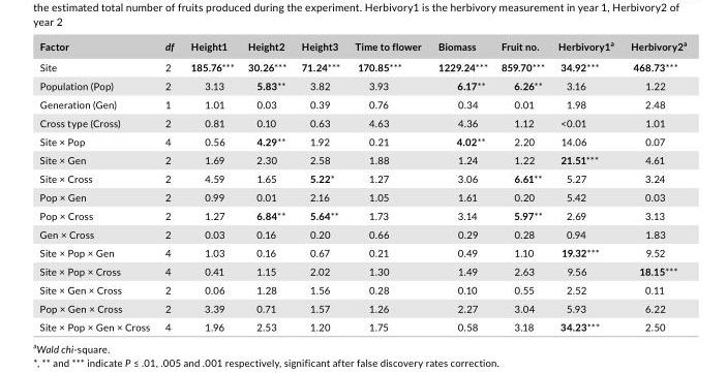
<table><thead><tr><td>Factor</td><td>df</td><td>Height1</td><td>Height2</td><td>Height3</td><td>Time to flower</td><td>Biomass</td><td>Fruit no.</td><td>Herbivory1<sup>a</sup></td><td>Herbivory2<sup>a</sup></td></tr></thead><tbody><tr><td>Site</td><td>2</td><td>185.76***</td><td>30.26***</td><td>71.24***</td><td>170.85***</td><td>1229.24***</td><td>859.70***</td><td>34.92***</td><td>468.73***</td></tr><tr><td>Population (Pop)</td><td>2</td><td>3.13</td><td>5.83**</td><td>3.82</td><td>3.93</td><td>6.17**</td><td>6.26**</td><td>3.16</td><td>1.22</td></tr><tr><td>Generation (Gen)</td><td>1</td><td>1.01</td><td>0.03</td><td>0.39</td><td>0.76</td><td>0.34</td><td>0.01</td><td>1.98</td><td>2.48</td></tr><tr><td>Cross type (Cross)</td><td>2</td><td>0.81</td><td>0.10</td><td>0.63</td><td>4.63</td><td>4.36</td><td>1.12</td><td>&lt;0.01</td><td>1.01</td></tr><tr><td>Site × Pop</td><td>4</td><td>0.56</td><td>4.29**</td><td>1.92</td><td>0.21</td><td>4.02**</td><td>2.20</td><td>14.06</td><td>0.07</td></tr><tr><td>Site × Gen</td><td>2</td><td>1.69</td><td>2.30</td><td>2.58</td><td>1.88</td><td>1.24</td><td>1.22</td><td>21.51***</td><td>4.61</td></tr><tr><td>Site × Cross</td><td>2</td><td>4.59</td><td>1.65</td><td>5.22*</td><td>1.27</td><td>3.06</td><td>6.61**</td><td>5.27</td><td>3.24</td></tr><tr><td>Pop × Gen</td><td>2</td><td>0.99</td><td>0.01</td><td>2.16</td><td>1.05</td><td>1.61</td><td>0.20</td><td>5.42</td><td>0.03</td></tr><tr><td>Pop × Cross</td><td>2</td><td>1.27</td><td>6.84**</td><td>5.64**</td><td>1.73</td><td>3.14</td><td>5.97**</td><td>2.69</td><td>3.13</td></tr><tr><td>Gen × Cross</td><td>2</td><td>0.03</td><td>0.16</td><td>0.20</td><td>0.66</td><td>0.29</td><td>0.28</td><td>0.94</td><td>1.83</td></tr><tr><td>Site × Pop × Gen</td><td>4</td><td>1.03</td><td>0.16</td><td>0.67</td><td>0.21</td><td>0.49</td><td>1.10</td><td>19.32***</td><td>9.52</td></tr><tr><td>Site × Pop × Cross</td><td>4</td><td>0.41</td><td>1.15</td><td>2.02</td><td>1.30</td><td>1.49</td><td>2.63</td><td>9.56</td><td>18.15***</td></tr><tr><td>Site × Gen × Cross</td><td>2</td><td>0.06</td><td>1.28</td><td>1.56</td><td>0.28</td><td>0.10</td><td>0.55</td><td>2.52</td><td>0.11</td></tr><tr><td>Pop × Gen × Cross</td><td>2</td><td>3.39</td><td>0.71</td><td>1.57</td><td>1.26</td><td>2.27</td><td>3.04</td><td>5.93</td><td>6.22</td></tr><tr><td>Site × Pop × Gen × Cross</td><td>4</td><td>1.96</td><td>2.53</td><td>1.20</td><td>1.75</td><td>0.58</td><td>3.18</td><td>34.23***</td><td>2.50</td></tr></tbody></table>